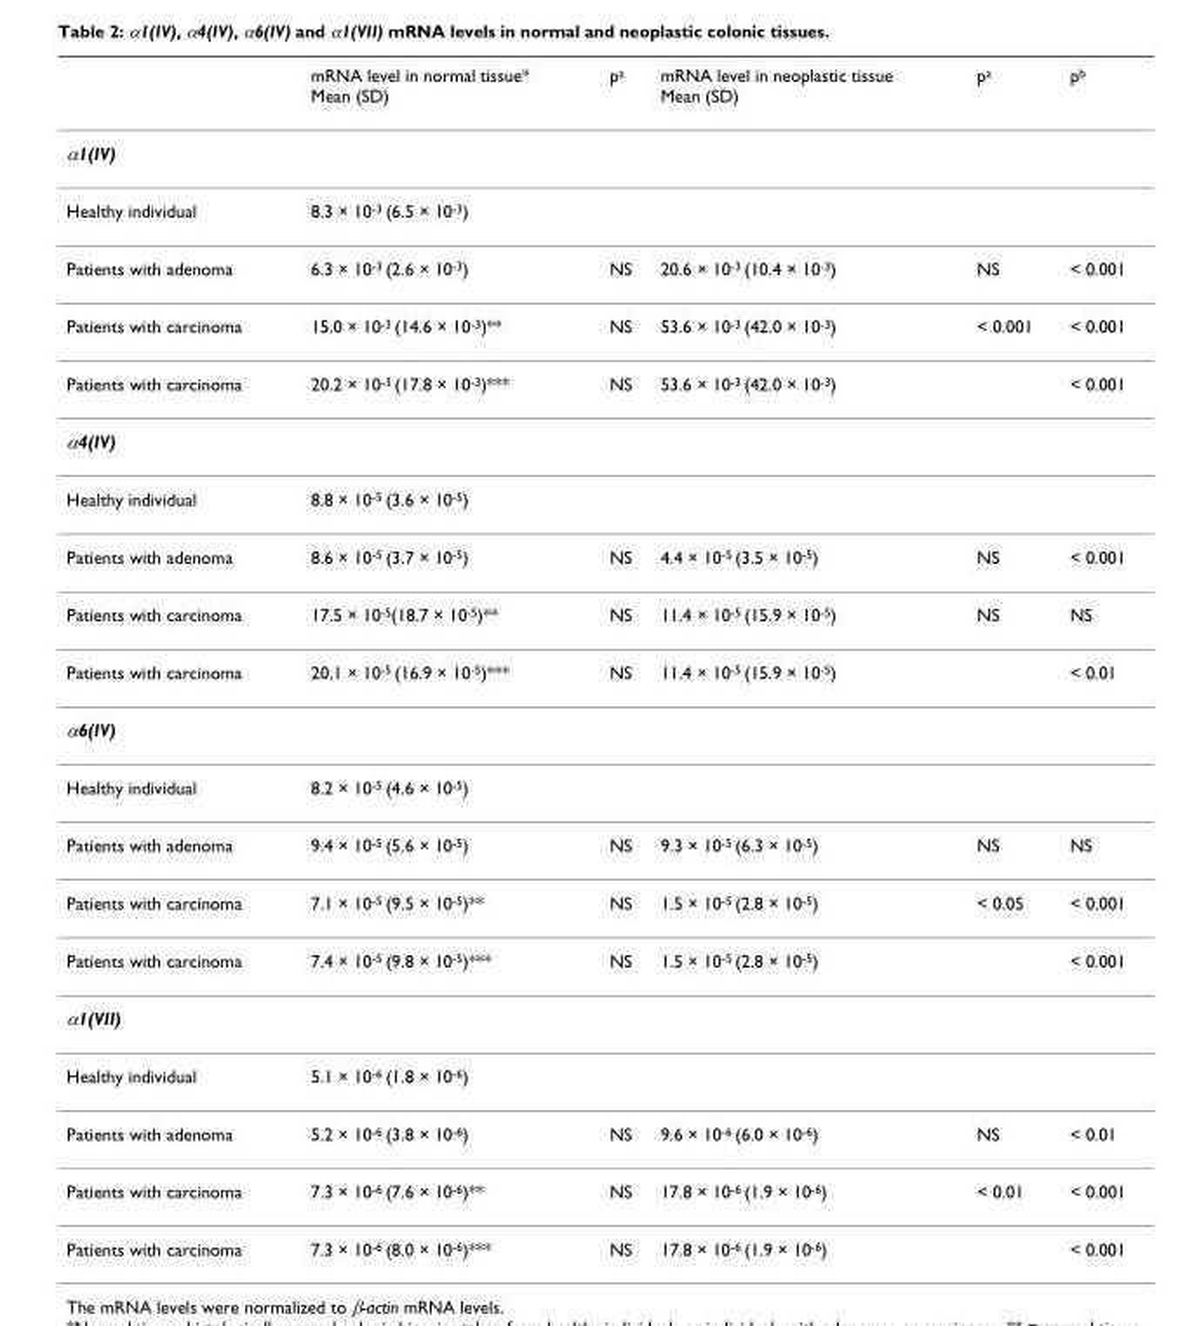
<table><thead><tr><td></td><td>mRNA level in normal tissue* Mean (SD)</td><td>p<sup>a</sup></td><td>mRNA level in neoplastic tissue Mean (SD)</td><td>p<sup>a</sup></td><td>p<sup>b</sup></td></tr></thead><tbody><tr><td colspan="6">α1(IV)</td></tr><tr><td>Healthy individual</td><td>8.3 × 10<sup>-3</sup> (6.5 × 10<sup>-3</sup>)</td><td></td><td></td><td></td><td></td></tr><tr><td>Patients with adenoma</td><td>6.3 × 10<sup>-3</sup> (2.6 × 10<sup>-3</sup>)</td><td>NS</td><td>20.6 × 10<sup>-3</sup> (10.4 × 10<sup>-3</sup>)</td><td>NS</td><td>&lt; 0.001</td></tr><tr><td>Patients with carcinoma</td><td>15.0 × 10<sup>-3</sup> (14.6 × 10<sup>-3</sup>)**</td><td>NS</td><td>53.6 × 10<sup>-3</sup> (42.0 × 10<sup>-3</sup>)</td><td>&lt; 0.001</td><td>&lt; 0.001</td></tr><tr><td>Patients with carcinoma</td><td>20.2 × 10<sup>-3</sup> (17.8 × 10<sup>-3</sup>)***</td><td>NS</td><td>53.6 × 10<sup>-3</sup> (42.0 × 10<sup>-3</sup>)</td><td></td><td>&lt; 0.001</td></tr><tr><td colspan="6">α4(IV)</td></tr><tr><td>Healthy individual</td><td>8.8 × 10<sup>-5</sup> (3.6 × 10<sup>-5</sup>)</td><td></td><td></td><td></td><td></td></tr><tr><td>Patients with adenoma</td><td>8.6 × 10<sup>-5</sup> (3.7 × 10<sup>-5</sup>)</td><td>NS</td><td>4.4 × 10<sup>-5</sup> (3.5 × 10<sup>-5</sup>)</td><td>NS</td><td>&lt; 0.001</td></tr><tr><td>Patients with carcinoma</td><td>17.5 × 10<sup>-5</sup>(18.7 × 10<sup>-5</sup>)**</td><td>NS</td><td>11.4 × 10<sup>-5</sup> (15.9 × 10<sup>-5</sup>)</td><td>NS</td><td>NS</td></tr><tr><td>Patients with carcinoma</td><td>20.1 × 10<sup>-5</sup> (16.9 × 10<sup>-5</sup>)***</td><td>NS</td><td>11.4 × 10<sup>-5</sup> (15.9 × 10<sup>-5</sup>)</td><td></td><td>&lt; 0.01</td></tr><tr><td colspan="6">α6(IV)</td></tr><tr><td>Healthy individual</td><td>8.2 × 10<sup>-5</sup> (4.6 × 10<sup>-5</sup>)</td><td></td><td></td><td></td><td></td></tr><tr><td>Patients with adenoma</td><td>9.4 × 10<sup>-5</sup> (5.6 × 10<sup>-5</sup>)</td><td>NS</td><td>9.3 × 10<sup>-5</sup> (6.3 × 10<sup>-5</sup>)</td><td>NS</td><td>NS</td></tr><tr><td>Patients with carcinoma</td><td>7.1 × 10<sup>-5</sup> (9.5 × 10<sup>-5</sup>)**</td><td>NS</td><td>1.5 × 10<sup>-5</sup> (2.8 × 10<sup>-5</sup>)</td><td>&lt; 0.05</td><td>&lt; 0.001</td></tr><tr><td>Patients with carcinoma</td><td>7.4 × 10<sup>-5</sup> (9.8 × 10<sup>-5</sup>)***</td><td>NS</td><td>1.5 × 10<sup>-5</sup> (2.8 × 10<sup>-5</sup>)</td><td></td><td>&lt; 0.001</td></tr><tr><td colspan="6">α1(VII)</td></tr><tr><td>Healthy individual</td><td>5.1 × 10<sup>-6</sup> (1.8 × 10<sup>-6</sup>)</td><td></td><td></td><td></td><td></td></tr><tr><td>Patients with adenoma</td><td>5.2 × 10<sup>-6</sup> (3.8 × 10<sup>-6</sup>)</td><td>NS</td><td>9.6 × 10<sup>-6</sup> (6.0 × 10<sup>-6</sup>)</td><td>NS</td><td>&lt; 0.01</td></tr><tr><td>Patients with carcinoma</td><td>7.3 × 10<sup>-6</sup> (7.6 × 10<sup>-6</sup>)**</td><td>NS</td><td>17.8 × 10<sup>-6</sup> (1.9 × 10<sup>-6</sup>)</td><td>&lt; 0.01</td><td>&lt; 0.001</td></tr><tr><td>Patients with carcinoma</td><td>7.3 × 10<sup>-6</sup> (8.0 × 10<sup>-6</sup>)***</td><td>NS</td><td>17.8 × 10<sup>-6</sup> (1.9 × 10<sup>-6</sup>)</td><td></td><td>&lt; 0.001</td></tr></tbody></table>